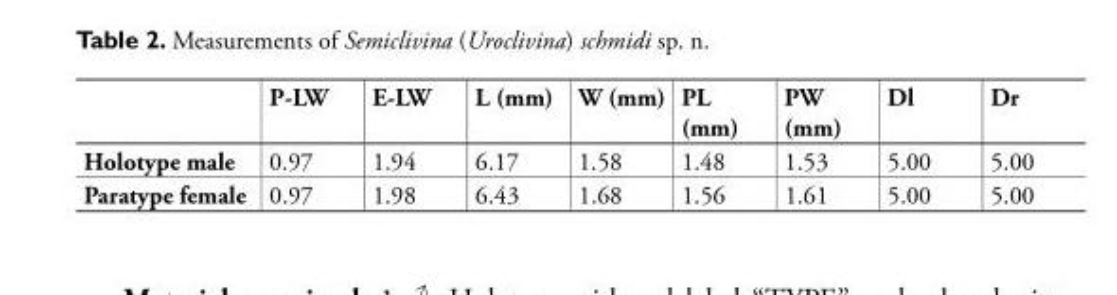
<table><thead><tr><td></td><td>P-LW</td><td>E-LW</td><td>L (mm)</td><td>W (mm)</td><td>PL (mm)</td><td>PW (mm)</td><td>Dl</td><td>Dr</td></tr></thead><tbody><tr><td>Holotype male</td><td>0.97</td><td>1.94</td><td>6.17</td><td>1.58</td><td>1.48</td><td>1.53</td><td>5.00</td><td>5.00</td></tr><tr><td>Paratype female</td><td>0.97</td><td>1.98</td><td>6.43</td><td>1.68</td><td>1.56</td><td>1.61</td><td>5.00</td><td>5.00</td></tr></tbody></table>